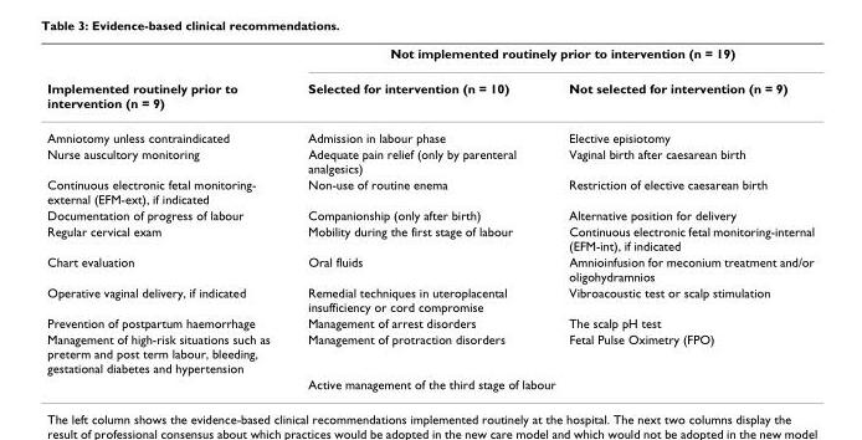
<table><thead><tr><td rowspan="2">Implemented routinely prior to intervention (n = 9)</td><td colspan="2">Not implemented routinely prior to intervention (n = 19)</td></tr><tr><td>Selected for intervention (n = 10)</td><td>Not selected for intervention (n = 9)</td></tr></thead><tbody><tr><td>Amniotomy unless contraindicated</td><td>Admission in labour phase</td><td>Elective episiotomy</td></tr><tr><td>Nurse auscultory monitoring</td><td>Adequate pain relief (only by parenteral analgesics)</td><td>Vaginal birth after caesarean birth</td></tr><tr><td>Continuous electronic fetal monitoring- external (EFM-ext), if indicated</td><td>Non-use of routine enema</td><td>Restriction of elective caesarean birth</td></tr><tr><td>Documentation of progress of labour</td><td>Companionship (only after birth)</td><td>Alternative position for delivery</td></tr><tr><td>Regular cervical exam</td><td>Mobility during the first stage of labour</td><td>Continuous electronic fetal monitoring-internal (EFM-int), if indicated</td></tr><tr><td>Chart evaluation</td><td>Oral fluids</td><td>Amnioinfusion for meconium treatment and/or oligohydramnios</td></tr><tr><td>Operative vaginal delivery, if indicated</td><td>Remedial techniques in uteroplacental insufficiency or cord compromise</td><td>Vibroacoustic test or scalp stimulation</td></tr><tr><td>Prevention of postpartum haemorrhage</td><td>Management of arrest disorders</td><td>The scalp pH test</td></tr><tr><td rowspan="2">Management of high-risk situations such as preterm and post term labour, bleeding, gestational diabetes and hypertension</td><td>Management of protraction disorders</td><td>Fetal Pulse Oximetry (FPO)</td></tr><tr><td>Active management of the third stage of labour</td><td></td></tr></tbody></table>